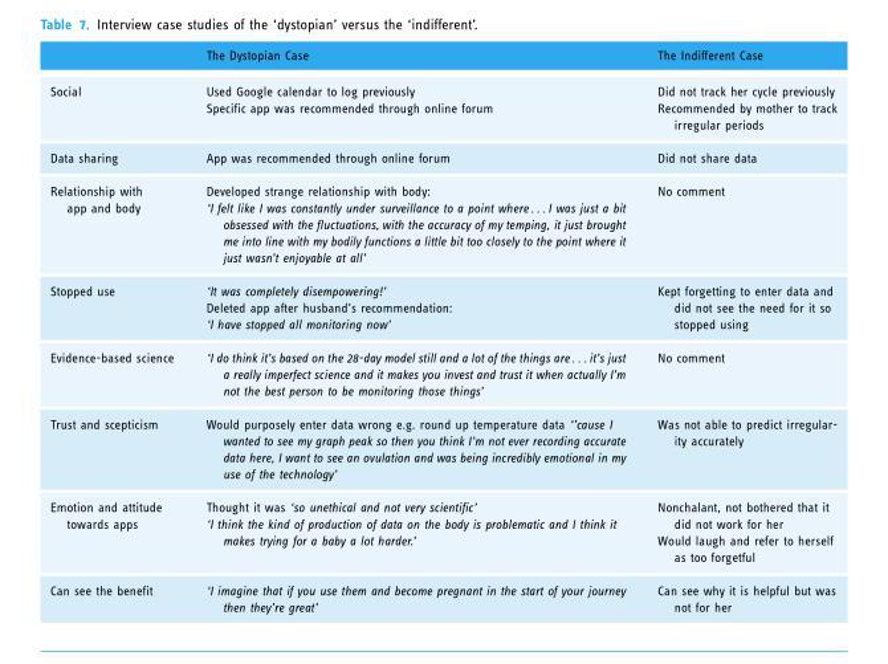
<table><thead><tr><td></td><td>The Dystopian Case</td><td>The Indifferent Case</td></tr></thead><tbody><tr><td>Social</td><td>Used Google calendar to log previously Specific app was recommended through online forum</td><td>Did not track her cycle previously Recommended by mother to track irregular periods</td></tr><tr><td>Data sharing</td><td>App was recommended through online forum</td><td>Did not share data</td></tr><tr><td>Relationship with app and body</td><td>Developed strange relationship with body: ‘I felt like I was constantly under surveillance to a point where . . . I was just a bit obsessed with the fluctuations, with the accuracy of my temping, it just brought me into line with my bodily functions a little bit too closely to the point where it just wasn’t enjoyable at all’</td><td>No comment</td></tr><tr><td>Stopped use</td><td>‘It was completely disempowering!’ Deleted app after husband’s recommendation: ‘I have stopped all monitoring now’</td><td>Kept forgetting to enter data and did not see the need for it so stopped using</td></tr><tr><td>Evidence-based science</td><td>‘I do think it’s based on the 28-day model still and a lot of the things are . . . it’s just a really imperfect science and it makes you invest and trust it when actually I’m not the best person to be monitoring those things’</td><td>No comment</td></tr><tr><td>Trust and scepticism</td><td>Would purposely enter data wrong e.g. round up temperature data ‘’cause I wanted to see my graph peak so then you think I’m not ever recording accurate data here, I want to see an ovulation and was being incredibly emotional in my use of the technology’</td><td>Was not able to predict irregular- ity accurately</td></tr><tr><td>Emotion and attitude towards apps</td><td>Thought it was ‘so unethical and not very scientific’ ‘I think the kind of production of data on the body is problematic and I think it makes trying for a baby a lot harder.’</td><td>Nonchalant, not bothered that it did not work for her Would laugh and refer to herself as too forgetful</td></tr><tr><td>Can see the benefit</td><td>‘I imagine that if you use them and become pregnant in the start of your journey then they’re great’</td><td>Can see why it is helpful but was not for her</td></tr></tbody></table>